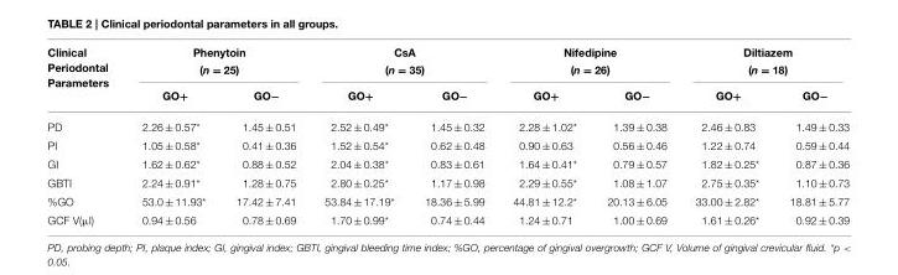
<table><thead><tr><td rowspan="2">Clinical Periodontal Parameters</td><td colspan="2">Phenytoin (n = 25)</td><td colspan="2">CsA (n = 35)</td><td colspan="2">Nifedipine (n = 26)</td><td colspan="2">Diltiazem (n = 18)</td></tr><tr><td>GO+</td><td>GO−</td><td>GO+</td><td>GO−</td><td>GO+</td><td>GO−</td><td>GO+</td><td>GO−</td></tr></thead><tbody><tr><td>PD</td><td>2.26 ± 0.57*</td><td>1.45 ± 0.51</td><td>2.52 ± 0.49*</td><td>1.45 ± 0.32</td><td>2.28 ± 1.02*</td><td>1.39 ± 0.38</td><td>2.46 ± 0.83</td><td>1.49 ± 0.33</td></tr><tr><td>PI</td><td>1.05 ± 0.58*</td><td>0.41 ± 0.36</td><td>1.52 ± 0.54*</td><td>0.62 ± 0.48</td><td>0.90 ± 0.63</td><td>0.56 ± 0.46</td><td>1.22 ± 0.74</td><td>0.59 ± 0.44</td></tr><tr><td>GI</td><td>1.62 ± 0.62*</td><td>0.88 ± 0.52</td><td>2.04 ± 0.38*</td><td>0.83 ± 0.61</td><td>1.64 ± 0.41*</td><td>0.79 ± 0.57</td><td>1.82 ± 0.25*</td><td>0.87 ± 0.36</td></tr><tr><td>GBTI</td><td>2.24 ± 0.91*</td><td>1.28 ± 0.75</td><td>2.80 ± 0.25*</td><td>1.17 ± 0.98</td><td>2.29 ± 0.55*</td><td>1.08 ± 1.07</td><td>2.75 ± 0.35*</td><td>1.10 ± 0.73</td></tr><tr><td>%GO</td><td>53.0 ± 11.93*</td><td>17.42 ± 7.41</td><td>53.84 ± 17.19*</td><td>18.36 ± 5.99</td><td>44.81 ± 12.2*</td><td>20.13 ± 6.05</td><td>33.00 ± 2.82*</td><td>18.81 ± 5.77</td></tr><tr><td>GCF V(µl)</td><td>0.94 ± 0.56</td><td>0.78 ± 0.69</td><td>1.70 ± 0.99*</td><td>0.74 ± 0.44</td><td>1.24 ± 0.71</td><td>1.00 ± 0.69</td><td>1.61 ± 0.26*</td><td>0.92 ± 0.39</td></tr></tbody></table>